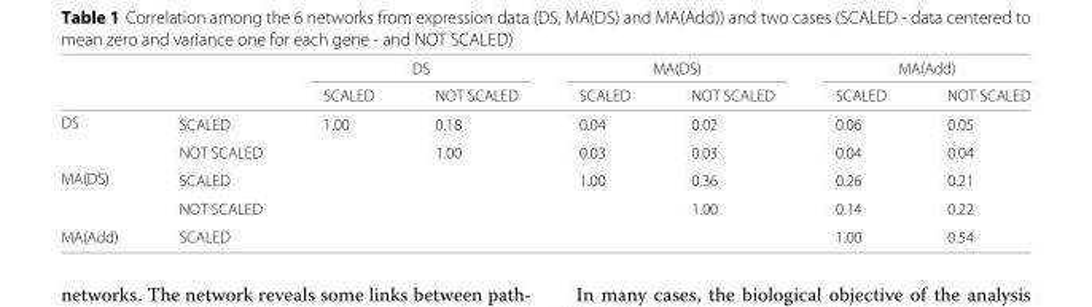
<table><thead><tr><td rowspan="2"></td><td rowspan="2"></td><td colspan="2">DS</td><td colspan="2">MA(DS)</td><td colspan="2">MA(Add)</td></tr><tr><td>SCALED</td><td>NOT SCALED</td><td>SCALED</td><td>NOT SCALED</td><td>SCALED</td><td>NOT SCALED</td></tr></thead><tbody><tr><td rowspan="2">DS</td><td>SCALED</td><td>1.00</td><td>0.18</td><td>0.04</td><td>0.02</td><td>0.06</td><td>0.05</td></tr><tr><td>NOT SCALED</td><td></td><td>1.00</td><td>0.03</td><td>0.03</td><td>0.04</td><td>0.04</td></tr><tr><td rowspan="2">MA(DS)</td><td>SCALED</td><td></td><td></td><td>1.00</td><td>0.36</td><td>0.26</td><td>0.21</td></tr><tr><td>NOT SCALED</td><td></td><td></td><td></td><td>1.00</td><td>0.14</td><td>0.22</td></tr><tr><td>MA(Add)</td><td>SCALED</td><td></td><td></td><td></td><td></td><td>1.00</td><td>0.54</td></tr></tbody></table>